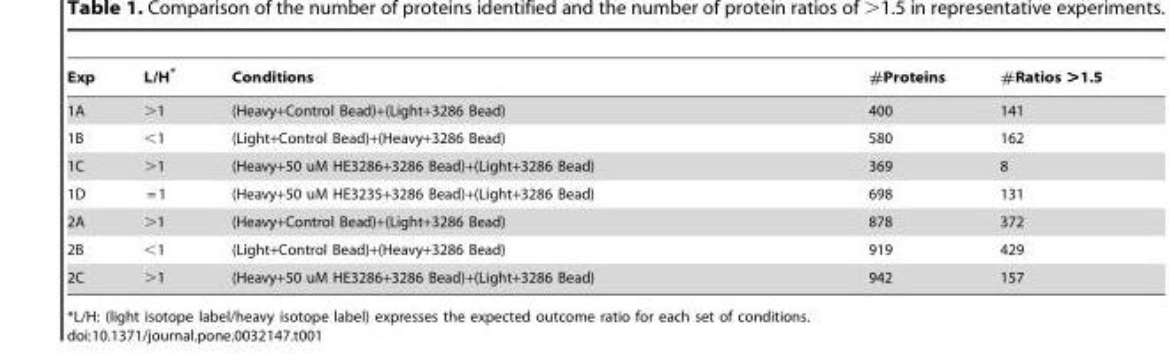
<table><thead><tr><td>Exp</td><td>L/H*</td><td>Conditions</td><td>#Proteins</td><td>#Ratios &gt;1.5</td></tr></thead><tbody><tr><td>1A</td><td>&gt;1</td><td>(Heavy+Control Bead)+(Light+3286 Bead)</td><td>400</td><td>141</td></tr><tr><td>1B</td><td>&lt;1</td><td>(Light+Control Bead)+(Heavy+3286 Bead)</td><td>580</td><td>162</td></tr><tr><td>1C</td><td>&gt;1</td><td>(Heavy+50 uM HE3286+3286 Bead)+(Light+3286 Bead)</td><td>369</td><td>8</td></tr><tr><td>1D</td><td>= 1</td><td>(Heavy+50 uM HE3235+3286 Bead)+(Light+3286 Bead)</td><td>698</td><td>131</td></tr><tr><td>2A</td><td>&gt;1</td><td>(Heavy+Control Bead)+(Light+3286 Bead)</td><td>878</td><td>372</td></tr><tr><td>2B</td><td>&lt;1</td><td>(Light+Control Bead)+(Heavy+3286 Bead)</td><td>919</td><td>429</td></tr><tr><td>2C</td><td>&gt;1</td><td>(Heavy+50 uM HE3286+3286 Bead)+(Light+3286 Bead)</td><td>942</td><td>157</td></tr></tbody></table>